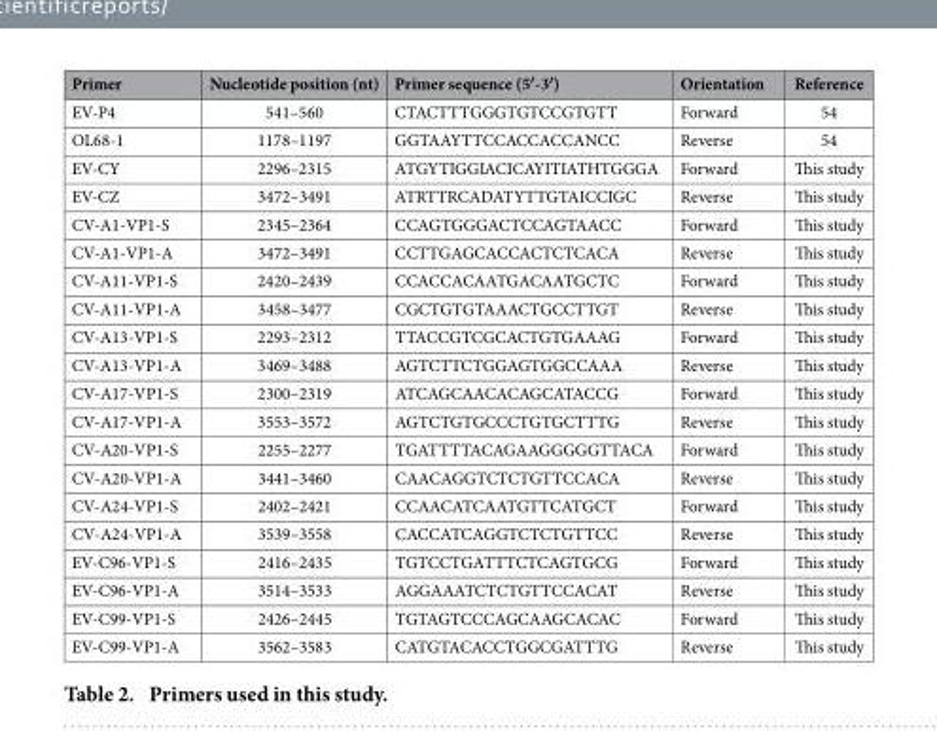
<table><thead><tr><td>Primer</td><td>Nucleotide position (nt)</td><td>Primer sequence (5′-3′)</td><td>Orientation</td><td>Reference</td></tr></thead><tbody><tr><td>EV-P4</td><td>541–560</td><td>CTACTTTGGGTGTCCGTGTT</td><td>Forward</td><td>54</td></tr><tr><td>OL68-1</td><td>1178–1197</td><td>GGTAAYTTCCACCACCANCC</td><td>Reverse</td><td>54</td></tr><tr><td>EV-CY</td><td>2296–2315</td><td>ATGYTIGGIACICAYITIATHTGGGA</td><td>Forward</td><td>This study</td></tr><tr><td>EV-CZ</td><td>3472–3491</td><td>ATRTTRCADATYTTGTAICCIGC</td><td>Reverse</td><td>This study</td></tr><tr><td>CV-A1-VP1-S</td><td>2345–2364</td><td>CCAGTGGGACTCCAGTAACC</td><td>Forward</td><td>This study</td></tr><tr><td>CV-A1-VP1-A</td><td>3472–3491</td><td>CCTTGAGCACCACTCTCACA</td><td>Reverse</td><td>This study</td></tr><tr><td>CV-A11-VP1-S</td><td>2420–2439</td><td>CCACCACAATGACAATGCTC</td><td>Forward</td><td>This study</td></tr><tr><td>CV-A11-VP1-A</td><td>3458–3477</td><td>CGCTGTGTAAACTGCCTTGT</td><td>Reverse</td><td>This study</td></tr><tr><td>CV-A13-VP1-S</td><td>2293–2312</td><td>TTACCGTCGCACTGTGAAAG</td><td>Forward</td><td>This study</td></tr><tr><td>CV-A13-VP1-A</td><td>3469–3488</td><td>AGTCTTCTGGAGTGGCCAAA</td><td>Reverse</td><td>This study</td></tr><tr><td>CV-A17-VP1-S</td><td>2300–2319</td><td>ATCAGCAACACAGCATACCG</td><td>Forward</td><td>This study</td></tr><tr><td>CV-A17-VP1-A</td><td>3553–3572</td><td>AGTCTGTGCCCTGTGCTTTG</td><td>Reverse</td><td>This study</td></tr><tr><td>CV-A20-VP1-S</td><td>2255–2277</td><td>TGATTTTACAGAAGGGGGTTACA</td><td>Forward</td><td>This study</td></tr><tr><td>CV-A20-VP1-A</td><td>3441–3460</td><td>CAACAGGTCTCTGTTCCACA</td><td>Reverse</td><td>This study</td></tr><tr><td>CV-A24-VP1-S</td><td>2402–2421</td><td>CCAACATCAATGTTCATGCT</td><td>Forward</td><td>This study</td></tr><tr><td>CV-A24-VP1-A</td><td>3539–3558</td><td>CACCATCAGGTCTCTGTTCC</td><td>Reverse</td><td>This study</td></tr><tr><td>EV-C96-VP1-S</td><td>2416–2435</td><td>TGTCCTGATTTCTCAGTGCG</td><td>Forward</td><td>This study</td></tr><tr><td>EV-C96-VP1-A</td><td>3514–3533</td><td>AGGAAATCTCTGTTCCACAT</td><td>Reverse</td><td>This study</td></tr><tr><td>EV-C99-VP1-S</td><td>2426–2445</td><td>TGTAGTCCCAGCAAGCACAC</td><td>Forward</td><td>This study</td></tr><tr><td>EV-C99-VP1-A</td><td>3562–3583</td><td>CATGTACACCTGGCGATTTG</td><td>Reverse</td><td>This study</td></tr></tbody></table>